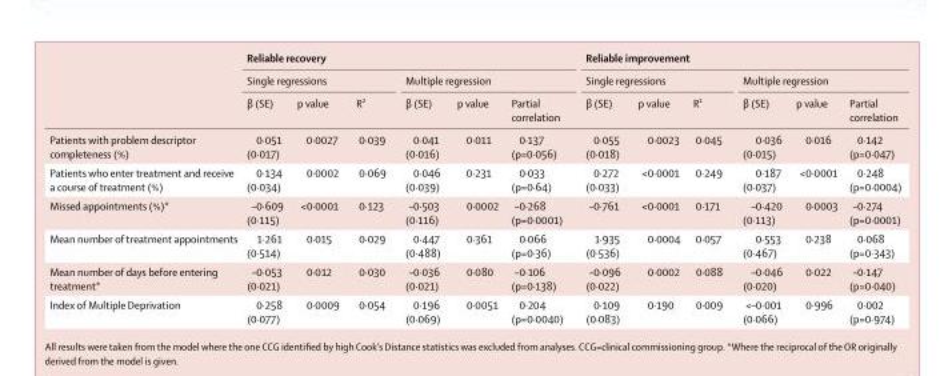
<table><thead><tr><td rowspan="3"></td><td colspan="6">Reliable recovery</td><td colspan="6">Reliable improvement</td></tr><tr><td colspan="3">Single regressions</td><td colspan="3">Multiple regression</td><td colspan="3">Single regressions</td><td colspan="3">Multiple regression</td></tr><tr><td>β (SE)</td><td>p value</td><td>R²</td><td>β (SE)</td><td>p value</td><td>Partial correlation</td><td>β (SE)</td><td>p value</td><td>R²</td><td>β (SE)</td><td>p value</td><td>Partial correlation</td></tr></thead><tbody><tr><td>Patients with problem descriptor completeness (%)</td><td>0·051 (0·017)</td><td>0·0027</td><td>0·039</td><td>0·041 (0·016)</td><td>0·011</td><td>0·137 (p=0·056)</td><td>0·055 (0·018)</td><td>0·0023</td><td>0·045</td><td>0·036 (0·015)</td><td>0·016</td><td>0·142 (p=0·047)</td></tr><tr><td>Patients who enter treatment and receive a course of treatment (%)</td><td>0·134 (0·034)</td><td>0·0002</td><td>0·069</td><td>0·046 (0·039)</td><td>0·231</td><td>0·033 (p=0·64)</td><td>0·272 (0·033)</td><td>&lt;0·0001</td><td>0·249</td><td>0·187 (0·037)</td><td>&lt;0·0001</td><td>0·248 (p=0·0004)</td></tr><tr><td>Missed appointments (%)*</td><td>–0·609 (0·115)</td><td>&lt;0·0001</td><td>0·123</td><td>–0·503 (0·116)</td><td>0·0002</td><td>–0·268 (p=0·0001)</td><td>–0·761</td><td>&lt;0·0001</td><td>0·171</td><td>–0·420 (0·113)</td><td>0·0003</td><td>–0·274 (p=0·0001)</td></tr><tr><td>Mean number of treatment appointments</td><td>1·261 (0·514)</td><td>0·015</td><td>0·029</td><td>0·447 (0·488)</td><td>0·361</td><td>0·066 (p=0·36)</td><td>1·935 (0·536)</td><td>0·0004</td><td>0·057</td><td>0·553 (0·467)</td><td>0·238</td><td>0·068 (p=0·343)</td></tr><tr><td>Mean number of days before entering treatment*</td><td>–0·053 (0·021)</td><td>0·012</td><td>0·030</td><td>–0·036 (0·021)</td><td>0·080</td><td>–0·106 (p=0·138)</td><td>–0·096 (0·022)</td><td>0·0002</td><td>0·088</td><td>–0·046 (0·020)</td><td>0·022</td><td>–0·147 (p=0·040)</td></tr><tr><td>Index of Multiple Deprivation</td><td>0·258 (0·077)</td><td>0·0009</td><td>0·054</td><td>0·196 (0·069)</td><td>0·0051</td><td>0·204 (p=0·0040)</td><td>0·109 (0·083)</td><td>0·190</td><td>0·009</td><td>&lt;–0·001 (0·066)</td><td>0·996</td><td>0·002 (p=0·974)</td></tr></tbody></table>